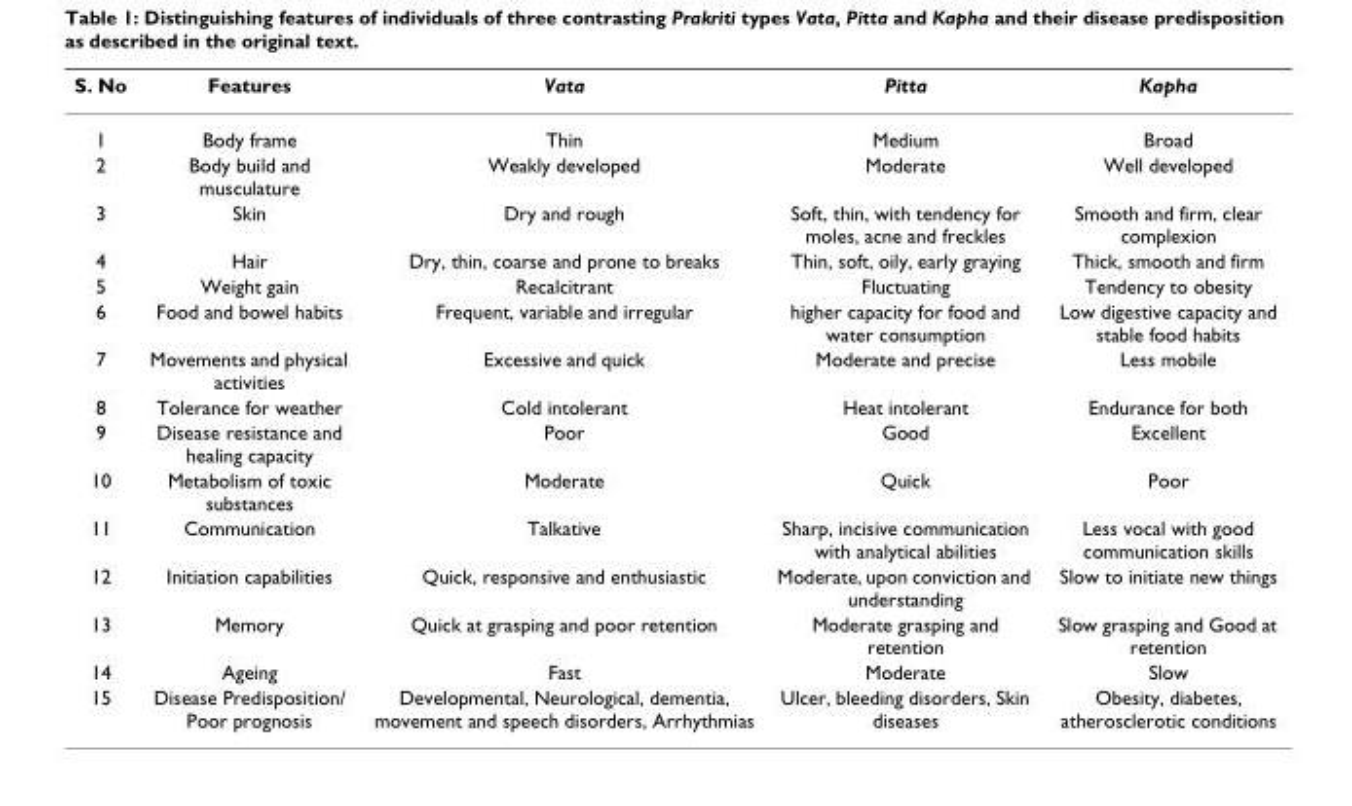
<table><thead><tr><td>S. No</td><td>Features</td><td>Vata</td><td>Pitta</td><td>Kapha</td></tr></thead><tbody><tr><td>1</td><td>Body frame</td><td>Thin</td><td>Medium</td><td>Broad</td></tr><tr><td>2</td><td>Body build and musculature</td><td>Weakly developed</td><td>Moderate</td><td>Well developed</td></tr><tr><td>3</td><td>Skin</td><td>Dry and rough</td><td>Soft, thin, with tendency for moles, acne and freckles</td><td>Smooth and firm, clear complexion</td></tr><tr><td>4</td><td>Hair</td><td>Dry, thin, coarse and prone to breaks</td><td>Thin, soft, oily, early graying</td><td>Thick, smooth and firm</td></tr><tr><td>5</td><td>Weight gain</td><td>Recalcitrant</td><td>Fluctuating</td><td>Tendency to obesity</td></tr><tr><td>6</td><td>Food and bowel habits</td><td>Frequent, variable and irregular</td><td>higher capacity for food and water consumption</td><td>Low digestive capacity and stable food habits</td></tr><tr><td>7</td><td>Movements and physical activities</td><td>Excessive and quick</td><td>Moderate and precise</td><td>Less mobile</td></tr><tr><td>8</td><td>Tolerance for weather</td><td>Cold intolerant</td><td>Heat intolerant</td><td>Endurance for both</td></tr><tr><td>9</td><td>Disease resistance and healing capacity</td><td>Poor</td><td>Good</td><td>Excellent</td></tr><tr><td>10</td><td>Metabolism of toxic substances</td><td>Moderate</td><td>Quick</td><td>Poor</td></tr><tr><td>11</td><td>Communication</td><td>Talkative</td><td>Sharp, incisive communication with analytical abilities</td><td>Less vocal with good communication skills</td></tr><tr><td>12</td><td>Initiation capabilities</td><td>Quick, responsive and enthusiastic</td><td>Moderate, upon conviction and understanding</td><td>Slow to initiate new things</td></tr><tr><td>13</td><td>Memory</td><td>Quick at grasping and poor retention</td><td>Moderate grasping and retention</td><td>Slow grasping and Good at retention</td></tr><tr><td>14</td><td>Ageing</td><td>Fast</td><td>Moderate</td><td>Slow</td></tr><tr><td>15</td><td>Disease Predisposition/ Poor prognosis</td><td>Developmental, Neurological, dementia, movement and speech disorders, Arrhythmias</td><td>Ulcer, bleeding disorders, Skin diseases</td><td>Obesity, diabetes, atherosclerotic conditions</td></tr></tbody></table>